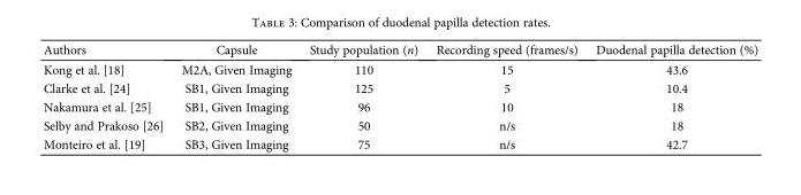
<table><thead><tr><td>Authors</td><td>Capsule</td><td>Study population (n)</td><td>Recording speed (frames/s)</td><td>Duodenal papilla detection (%)</td></tr></thead><tbody><tr><td>Kong et al. [18]</td><td>M2A, Given Imaging</td><td>110</td><td>15</td><td>43.6</td></tr><tr><td>Clarke et al. [24]</td><td>SB1, Given Imaging</td><td>125</td><td>5</td><td>10.4</td></tr><tr><td>Nakamura et al. [25]</td><td>SB1, Given Imaging</td><td>96</td><td>10</td><td>18</td></tr><tr><td>Selby and Prakoso [26]</td><td>SB2, Given Imaging</td><td>50</td><td>n/s</td><td>18</td></tr><tr><td>Monteiro et al. [19]</td><td>SB3, Given Imaging</td><td>75</td><td>n/s</td><td>42.7</td></tr></tbody></table>